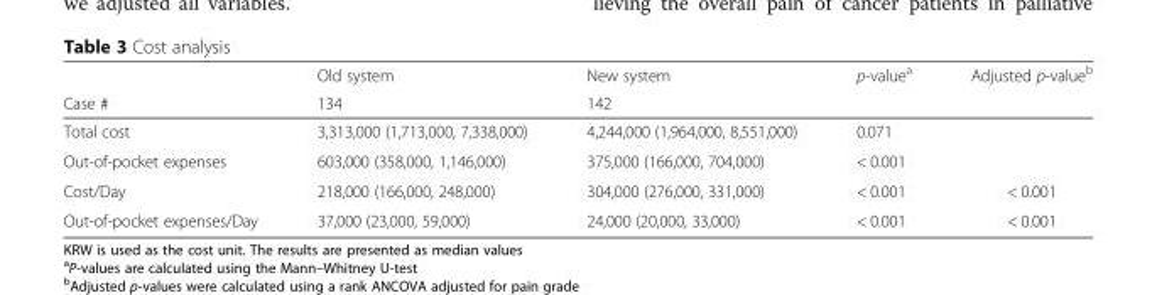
<table><thead><tr><td rowspan="2">Case #</td><td rowspan="2">Old system 134</td><td rowspan="2">New system 142</td><td rowspan="2">p-value<sup>a</sup></td><td rowspan="2">Adjusted p-value<sup>b</sup></td></tr><tr></tr></thead><tbody><tr><td>Total cost</td><td>3,313,000 (1,713,000, 7,338,000)</td><td>4,244,000 (1,964,000, 8,551,000)</td><td>0.071</td><td></td></tr><tr><td>Out-of-pocket expenses</td><td>603,000 (358,000, 1,146,000)</td><td>375,000 (166,000, 704,000)</td><td>&lt; 0.001</td><td></td></tr><tr><td>Cost/Day</td><td>218,000 (166,000, 248,000)</td><td>304,000 (276,000, 331,000)</td><td>&lt; 0.001</td><td>&lt; 0.001</td></tr><tr><td>Out-of-pocket expenses/Day</td><td>37,000 (23,000, 59,000)</td><td>24,000 (20,000, 33,000)</td><td>&lt; 0.001</td><td>&lt; 0.001</td></tr></tbody></table>